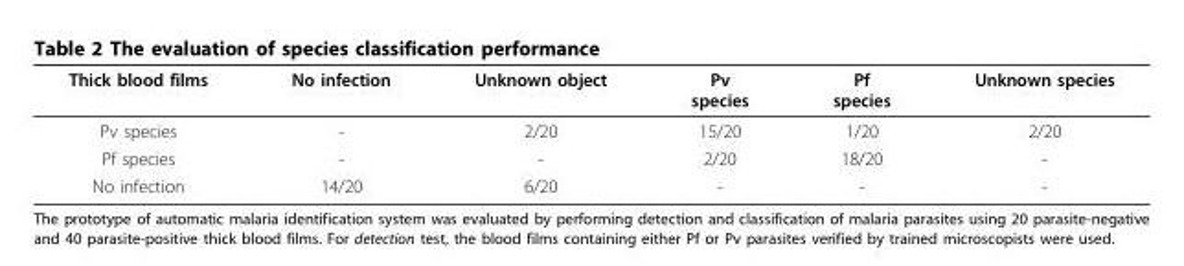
<table><thead><tr><td>Thick blood films</td><td>No infection</td><td>Unknown object</td><td>Pv species</td><td>Pf species</td><td>Unknown species</td></tr></thead><tbody><tr><td>Pv species</td><td>-</td><td>2/20</td><td>15/20</td><td>1/20</td><td>2/20</td></tr><tr><td>Pf species</td><td>-</td><td>-</td><td>2/20</td><td>18/20</td><td>-</td></tr><tr><td>No infection</td><td>14/20</td><td>6/20</td><td>-</td><td>-</td><td>-</td></tr></tbody></table>